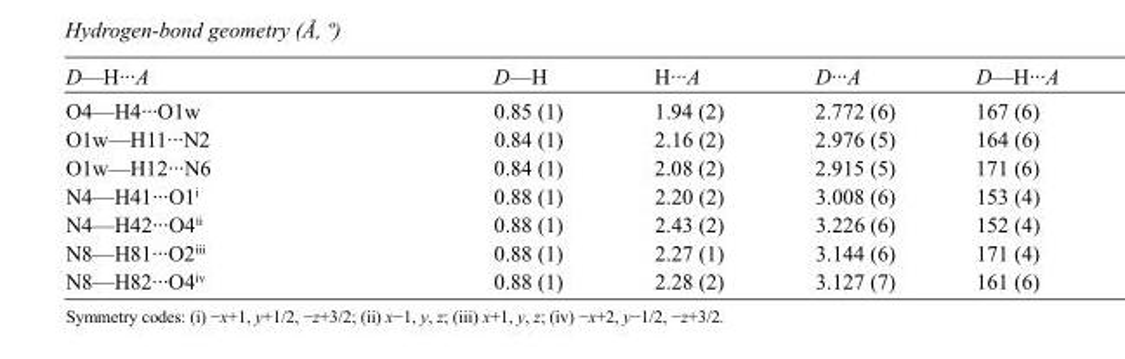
<table><tbody><tr><td>D—H···A</td><td>D—H</td><td>H···A</td><td>D···A</td><td>D—H···A</td></tr><tr><td>O4—H4···O1w</td><td>0.85 (1)</td><td>1.94 (2)</td><td>2.772 (6)</td><td>167 (6)</td></tr><tr><td>O1w—H11···N2</td><td>0.84 (1)</td><td>2.16 (2)</td><td>2.976 (5)</td><td>164 (6)</td></tr><tr><td>O1w—H12···N6</td><td>0.84 (1)</td><td>2.08 (2)</td><td>2.915 (5)</td><td>171 (6)</td></tr><tr><td>N4—H41···O1<sup>i</sup></td><td>0.88 (1)</td><td>2.20 (2)</td><td>3.008 (6)</td><td>153 (4)</td></tr><tr><td>N4—H42···O4<sup>ii</sup></td><td>0.88 (1)</td><td>2.43 (2)</td><td>3.226 (6)</td><td>152 (4)</td></tr><tr><td>N8—H81···O2<sup>iii</sup></td><td>0.88 (1)</td><td>2.27 (1)</td><td>3.144 (6)</td><td>171 (4)</td></tr><tr><td>N8—H82···O4<sup>iv</sup></td><td>0.88 (1)</td><td>2.28 (2)</td><td>3.127 (7)</td><td>161 (6)</td></tr></tbody></table>